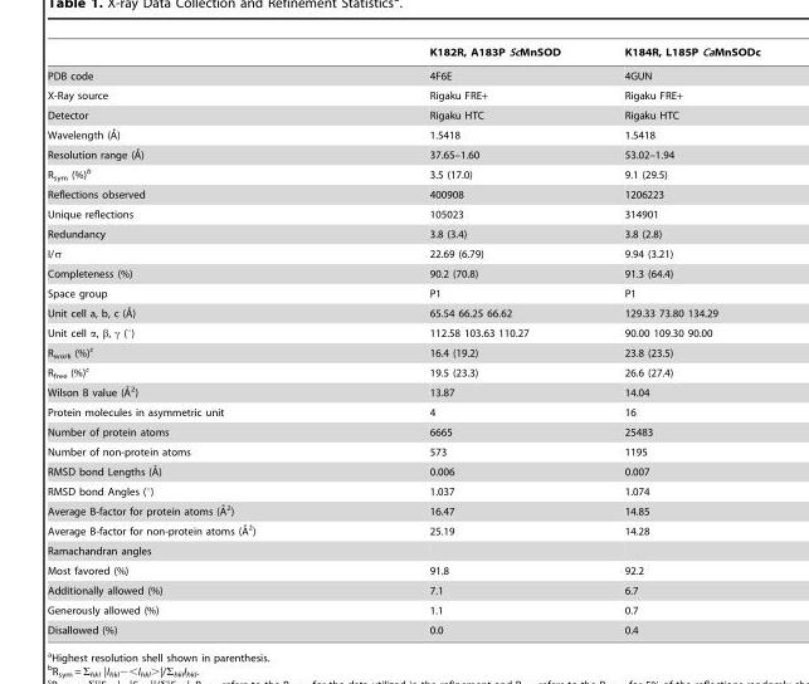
<table><thead><tr><td></td><td>K182R, A183P ScMnSOD</td><td>K184R, L185P CaMnSODc</td></tr></thead><tbody><tr><td>PDB code</td><td>4F6E</td><td>4GUN</td></tr><tr><td>X-Ray source</td><td>Rigaku FRE+</td><td>Rigaku FRE+</td></tr><tr><td>Detector</td><td>Rigaku HTC</td><td>Rigaku HTC</td></tr><tr><td>Wavelength (A˚)</td><td>1.5418</td><td>1.5418</td></tr><tr><td>Resolution range (A˚)</td><td>37.65–1.60</td><td>53.02–1.94</td></tr><tr><td>R<sub>sym</sub> (%)<sup>b</sup></td><td>3.5 (17.0)</td><td>9.1 (29.5)</td></tr><tr><td>Reflections observed</td><td>400908</td><td>1206223</td></tr><tr><td>Unique reflections</td><td>105023</td><td>314901</td></tr><tr><td>Redundancy</td><td>3.8 (3.4)</td><td>3.8 (2.8)</td></tr><tr><td>I/σ</td><td>22.69 (6.79)</td><td>9.94 (3.21)</td></tr><tr><td>Completeness (%)</td><td>90.2 (70.8)</td><td>91.3 (64.4)</td></tr><tr><td>Space group</td><td>P1</td><td>P1</td></tr><tr><td>Unit cell a, b, c (A˚)</td><td>65.54 66.25 66.62</td><td>129.33 73.80 134.29</td></tr><tr><td>Unit cell α, β, γ (°)</td><td>112.58 103.63 110.27</td><td>90.00 109.30 90.00</td></tr><tr><td>R<sub>work</sub> (%)<sup>c</sup></td><td>16.4 (19.2)</td><td>23.8 (23.5)</td></tr><tr><td>R<sub>free</sub> (%)<sup>c</sup></td><td>19.5 (23.3)</td><td>26.6 (27.4)</td></tr><tr><td>Wilson B value (A˚2)</td><td>13.87</td><td>14.04</td></tr><tr><td>Protein molecules in asymmetric unit</td><td>4</td><td>16</td></tr><tr><td>Number of protein atoms</td><td>6665</td><td>25483</td></tr><tr><td>Number of non-protein atoms</td><td>573</td><td>1195</td></tr><tr><td>RMSD bond Lengths (A˚)</td><td>0.006</td><td>0.007</td></tr><tr><td>RMSD bond Angles (°)</td><td>1.037</td><td>1.074</td></tr><tr><td>Average B-factor for protein atoms (A˚ 2)</td><td>16.47</td><td>14.85</td></tr><tr><td>Average B-factor for non-protein atoms (A˚2)</td><td>25.19</td><td>14.28</td></tr><tr><td colspan="3">Ramachandran angles</td></tr><tr><td>Most favored (%)</td><td>91.8</td><td>92.2</td></tr><tr><td>Additionally allowed (%)</td><td>7.1</td><td>6.7</td></tr><tr><td>Generously allowed (%)</td><td>1.1</td><td>0.7</td></tr><tr><td>Disallowed (%)</td><td>0.0</td><td>0.4</td></tr></tbody></table>